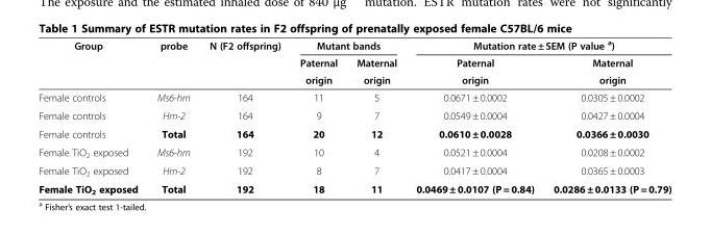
<table><thead><tr><td rowspan="3">Group</td><td rowspan="3">probe</td><td rowspan="3">N (F2 offspring)</td><td colspan="2">Mutant bands</td><td colspan="2">Mutation rate ± SEM (P value <sup>a</sup>)</td></tr><tr><td rowspan="2">Paternal origin</td><td rowspan="2">Maternal origin</td><td rowspan="2">Paternal origin</td><td rowspan="2">Maternal origin</td></tr><tr></tr></thead><tbody><tr><td>Female controls</td><td>Ms6-hm</td><td>164</td><td>11</td><td>5</td><td>0.0671 ± 0.0002</td><td>0.0305 ± 0.0002</td></tr><tr><td>Female controls</td><td>Hm-2</td><td>164</td><td>9</td><td>7</td><td>0.0549 ± 0.0004</td><td>0.0427 ± 0.0004</td></tr><tr><td>Female controls</td><td>Total</td><td>164</td><td>20</td><td>12</td><td>0.0610 ± 0.0028</td><td>0.0366 ± 0.0030</td></tr><tr><td>Female TiO<sub>2</sub> exposed</td><td>Ms6-hm</td><td>192</td><td>10</td><td>4</td><td>0.0521 ± 0.0004</td><td>0.0208 ± 0.0002</td></tr><tr><td>Female TiO<sub>2</sub> exposed</td><td>Hm-2</td><td>192</td><td>8</td><td>7</td><td>0.0417 ± 0.0004</td><td>0.0365 ± 0.0003</td></tr><tr><td>Female TiO<sub>2</sub> exposed</td><td>Total</td><td>192</td><td>18</td><td>11</td><td>0.0469 ± 0.0107 (P = 0.84)</td><td>0.0286 ± 0.0133 (P = 0.79)</td></tr></tbody></table>